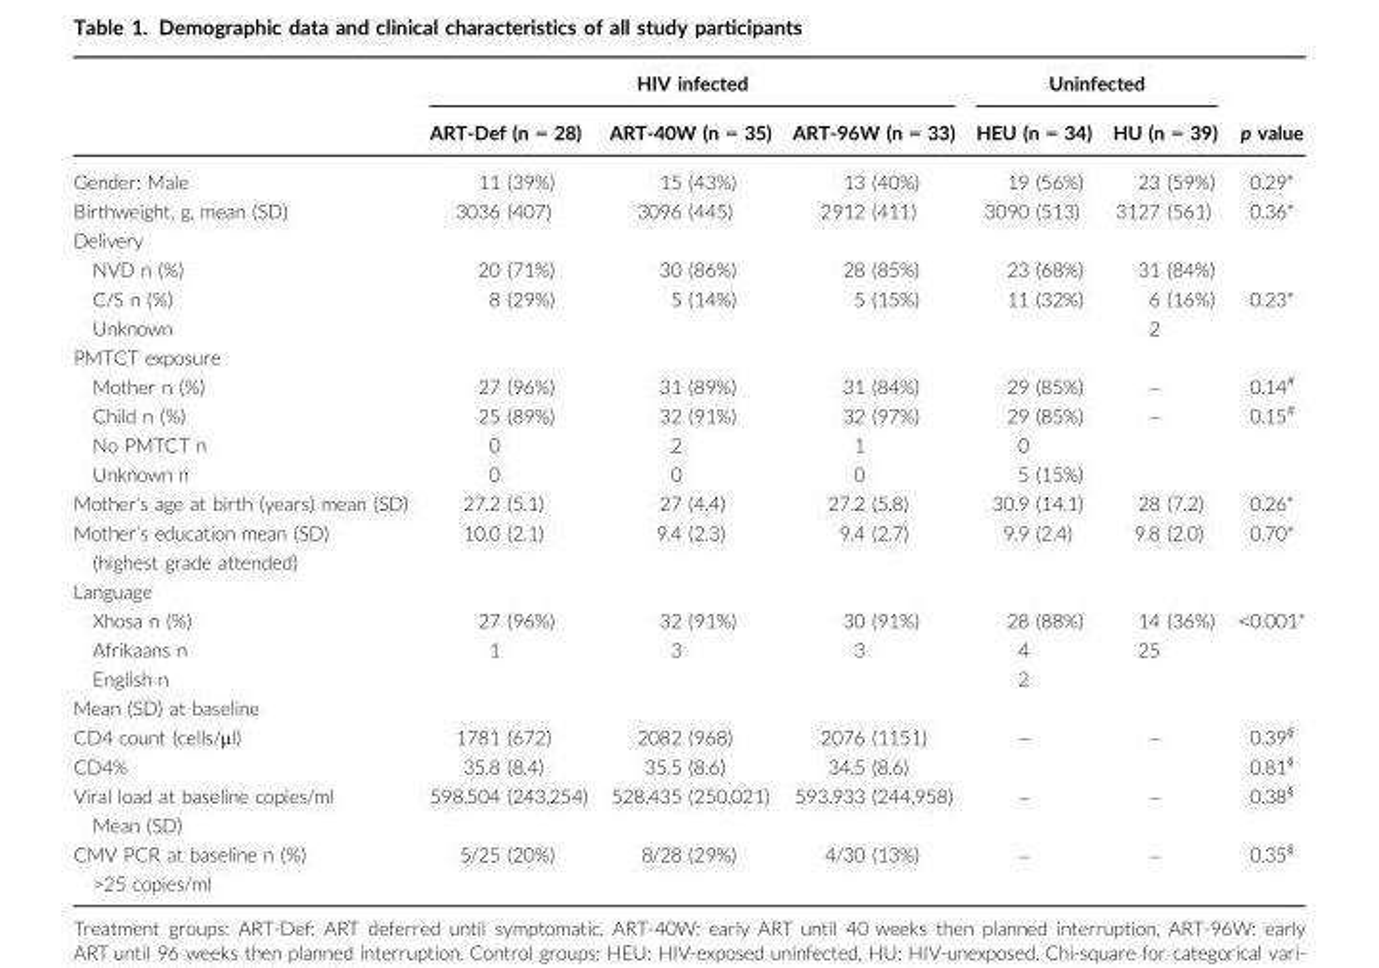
<table><thead><tr><td rowspan="2"></td><td colspan="3">HIV infected</td><td colspan="2">Uninfected</td><td rowspan="2">p value</td></tr><tr><td>ART-Def (n = 28)</td><td>ART-40W (n = 35)</td><td>ART-96W (n = 33)</td><td>HEU (n = 34)</td><td>HU (n = 39)</td></tr></thead><tbody><tr><td>Gender: Male</td><td>11 (39%)</td><td>15 (43%)</td><td>13 (40%)</td><td>19 (56%)</td><td>23 (59%)</td><td>0.29*</td></tr><tr><td>Birthweight, g, mean (SD)</td><td>3036 (407)</td><td>3096 (445)</td><td>2912 (411)</td><td>3090 (513)</td><td>3127 (561)</td><td>0.36*</td></tr><tr><td colspan="7">Delivery</td></tr><tr><td>NVD n (%)</td><td>20 (71%)</td><td>30 (86%)</td><td>28 (85%)</td><td>23 (68%)</td><td>31 (84%)</td><td></td></tr><tr><td>C/S n (%)</td><td>8 (29%)</td><td>5 (14%)</td><td>5 (15%)</td><td>11 (32%)</td><td>6 (16%)</td><td>0.23*</td></tr><tr><td>Unknown</td><td></td><td></td><td></td><td></td><td>2</td><td></td></tr><tr><td colspan="7">PMTCT exposure</td></tr><tr><td>Mother n (%)</td><td>27 (96%)</td><td>31 (89%)</td><td>31 (84%)</td><td>29 (85%)</td><td>–</td><td>0.14#</td></tr><tr><td>Child n (%)</td><td>25 (89%)</td><td>32 (91%)</td><td>32 (97%)</td><td>29 (85%)</td><td>–</td><td>0.15#</td></tr><tr><td>No PMTCT n</td><td>0</td><td>2</td><td>1</td><td>0</td><td></td><td></td></tr><tr><td>Unknown n</td><td>0</td><td>0</td><td>0</td><td>5 (15%)</td><td></td><td></td></tr><tr><td>Mother’s age at birth (years) mean (SD)</td><td>27.2 (5.1)</td><td>27 (4.4)</td><td>27.2 (5.8)</td><td>30.9 (14.1)</td><td>28 (7.2)</td><td>0.26*</td></tr><tr><td>Mother’s education mean (SD) (highest grade attended)</td><td>10.0 (2.1)</td><td>9.4 (2.3)</td><td>9.4 (2.7)</td><td>9.9 (2.4)</td><td>9.8 (2.0)</td><td>0.70*</td></tr><tr><td colspan="7">Language</td></tr><tr><td>Xhosa n (%)</td><td>27 (96%)</td><td>32 (91%)</td><td>30 (91%)</td><td>28 (88%)</td><td>14 (36%)</td><td>&lt;0.001*</td></tr><tr><td>Afrikaans n</td><td>1</td><td>3</td><td>3</td><td>4</td><td>25</td><td></td></tr><tr><td>English n</td><td></td><td></td><td></td><td>2</td><td></td><td></td></tr><tr><td colspan="7">Mean (SD) at baseline</td></tr><tr><td>CD4 count (cells/μl)</td><td>1781 (672)</td><td>2082 (968)</td><td>2076 (1151)</td><td>–</td><td>–</td><td>0.39§</td></tr><tr><td>CD4%</td><td>35.8 (8.4)</td><td>35.5 (8.6)</td><td>34.5 (8.6)</td><td></td><td></td><td>0.81§</td></tr><tr><td>Viral load at baseline copies/ml Mean (SD)</td><td>598,504 (243,254)</td><td>528,435 (250,021)</td><td>593,933 (244,958)</td><td>–</td><td>–</td><td>0.38§</td></tr><tr><td>CMV PCR at baseline n (%) &gt;25 copies/ml</td><td>5/25 (20%)</td><td>8/28 (29%)</td><td>4/30 (13%)</td><td>–</td><td>–</td><td>0.35§</td></tr></tbody></table>